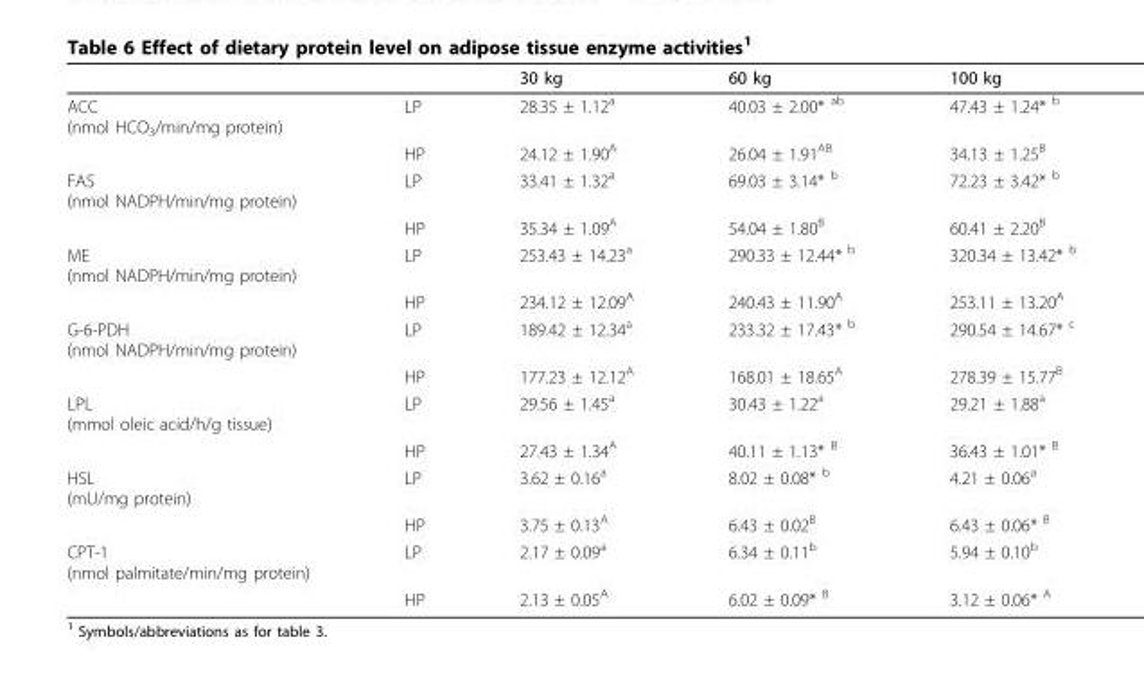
<table><thead><tr><td></td><td></td><td>30 kg</td><td>60 kg</td><td>100 kg</td></tr></thead><tbody><tr><td rowspan="2">ACC (nmol HCO<sub>3</sub>/min/mg protein)</td><td>LP</td><td>28.35 ± 1.12<sup>a</sup></td><td>40.03 ± 2.00* <sup>ab</sup></td><td>47.43 ± 1.24* <sup>b</sup></td></tr><tr><td>HP</td><td>24.12 ± 1.90<sup>A</sup></td><td>26.04 ± 1.91<sup>AB</sup></td><td>34.13 ± 1.25<sup>B</sup></td></tr><tr><td rowspan="2">FAS (nmol NADPH/min/mg protein)</td><td>LP</td><td>33.41 ± 1.32<sup>a</sup></td><td>69.03 ± 3.14* <sup>b</sup></td><td>72.23 ± 3.42* <sup>b</sup></td></tr><tr><td>HP</td><td>35.34 ± 1.09<sup>A</sup></td><td>54.04 ± 1.80<sup>B</sup></td><td>60.41 ± 2.20<sup>B</sup></td></tr><tr><td rowspan="2">ME (nmol NADPH/min/mg protein)</td><td>LP</td><td>253.43 ± 14.23<sup>a</sup></td><td>290.33 ± 12.44* <sup>b</sup></td><td>320.34 ± 13.42* <sup>b</sup></td></tr><tr><td>HP</td><td>234.12 ± 12.09<sup>A</sup></td><td>240.43 ± 11.90<sup>A</sup></td><td>253.11 ± 13.20<sup>A</sup></td></tr><tr><td rowspan="2">G-6-PDH (nmol NADPH/min/mg protein)</td><td>LP</td><td>189.42 ± 12.34<sup>a</sup></td><td>233.32 ± 17.43* <sup>b</sup></td><td>290.54 ± 14.67* <sup>c</sup></td></tr><tr><td>HP</td><td>177.23 ± 12.12<sup>A</sup></td><td>168.01 ± 18.65<sup>A</sup></td><td>278.39 ± 15.77<sup>B</sup></td></tr><tr><td rowspan="2">LPL (mmol oleic acid/h/g tissue)</td><td>LP</td><td>29.56 ± 1.45<sup>a</sup></td><td>30.43 ± 1.22<sup>a</sup></td><td>29.21 ± 1.88<sup>a</sup></td></tr><tr><td>HP</td><td>27.43 ± 1.34<sup>A</sup></td><td>40.11 ± 1.13* <sup>B</sup></td><td>36.43 ± 1.01* <sup>B</sup></td></tr><tr><td rowspan="2">HSL (mU/mg protein)</td><td>LP</td><td>3.62 ± 0.16<sup>a</sup></td><td>8.02 ± 0.08* <sup>b</sup></td><td>4.21 ± 0.06<sup>a</sup></td></tr><tr><td>HP</td><td>3.75 ± 0.13<sup>A</sup></td><td>6.43 ± 0.02<sup>B</sup></td><td>6.43 ± 0.06* <sup>B</sup></td></tr><tr><td rowspan="2">CPT-1 (nmol palmitate/min/mg protein)</td><td>LP</td><td>2.17 ± 0.09<sup>a</sup></td><td>6.34 ± 0.11<sup>b</sup></td><td>5.94 ± 0.10<sup>b</sup></td></tr><tr><td>HP</td><td>2.13 ± 0.05<sup>A</sup></td><td>6.02 ± 0.09* <sup>B</sup></td><td>3.12 ± 0.06* <sup>A</sup></td></tr></tbody></table>